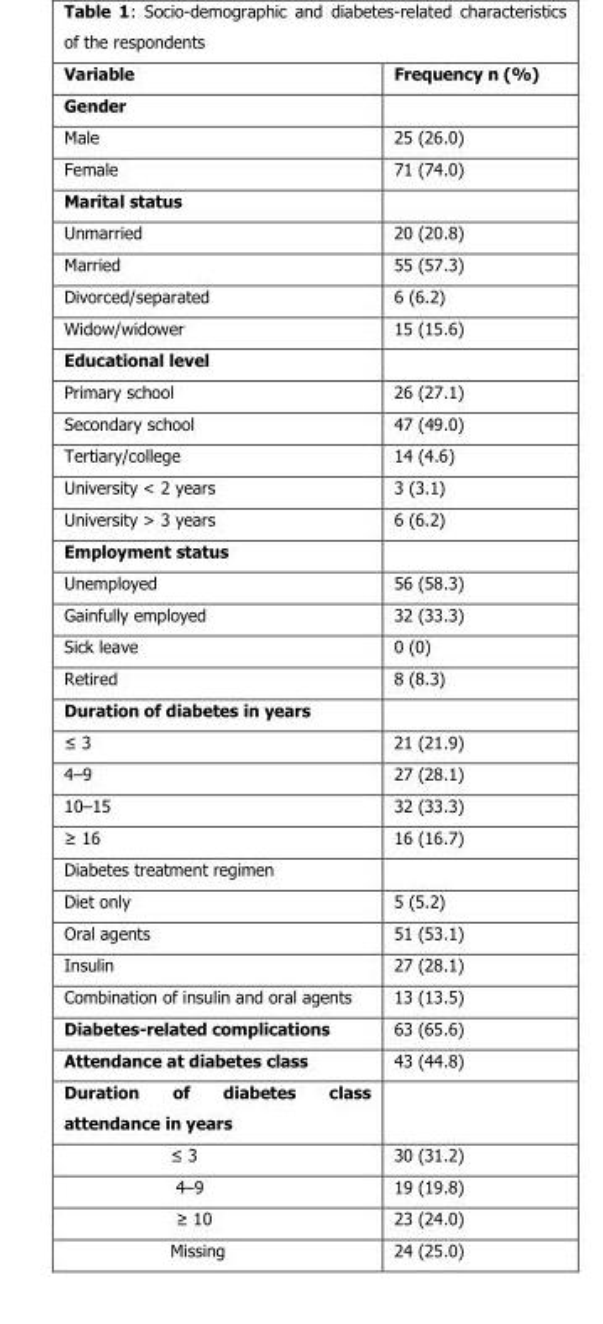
<table><thead><tr><td>Variable</td><td>Frequency n (%)</td></tr></thead><tbody><tr><td colspan="2">Gender</td></tr><tr><td>Male</td><td>25 (26.0)</td></tr><tr><td>Female</td><td>71 (74.0)</td></tr><tr><td colspan="2">Marital status</td></tr><tr><td>Unmarried</td><td>20 (20.8)</td></tr><tr><td>Married</td><td>55 (57.3)</td></tr><tr><td>Divorced/separated</td><td>6 (6.2)</td></tr><tr><td>Widow/widower</td><td>15 (15.6)</td></tr><tr><td colspan="2">Educational level</td></tr><tr><td>Primary school</td><td>26 (27.1)</td></tr><tr><td>Secondary school</td><td>47 (49.0)</td></tr><tr><td>Tertiary/college</td><td>14 (4.6)</td></tr><tr><td>University &lt; 2 years</td><td>3 (3.1)</td></tr><tr><td>University &gt; 3 years</td><td>6 (6.2)</td></tr><tr><td colspan="2">Employment status</td></tr><tr><td>Unemployed</td><td>56 (58.3)</td></tr><tr><td>Gainfully employed</td><td>32 (33.3)</td></tr><tr><td>Sick leave</td><td>0 (0)</td></tr><tr><td>Retired</td><td>8 (8.3)</td></tr><tr><td colspan="2">Duration of diabetes in years</td></tr><tr><td>≤ 3</td><td>21 (21.9)</td></tr><tr><td>4–9</td><td>27 (28.1)</td></tr><tr><td>10–15</td><td>32 (33.3)</td></tr><tr><td>≥ 16</td><td>16 (16.7)</td></tr><tr><td colspan="2">Diabetes treatment regimen</td></tr><tr><td>Diet only</td><td>5 (5.2)</td></tr><tr><td>Oral agents</td><td>51 (53.1)</td></tr><tr><td>Insulin</td><td>27 (28.1)</td></tr><tr><td>Combination of insulin and oral agents</td><td>13 (13.5)</td></tr><tr><td>Diabetes-related complications</td><td>63 (65.6)</td></tr><tr><td>Attendance at diabetes class</td><td>43 (44.8)</td></tr><tr><td colspan="2">Duration of diabetes class attendance in years</td></tr><tr><td>≤ 3</td><td>30 (31.2)</td></tr><tr><td>4–9</td><td>19 (19.8)</td></tr><tr><td>≥ 10</td><td>23 (24.0)</td></tr><tr><td>Missing</td><td>24 (25.0)</td></tr></tbody></table>